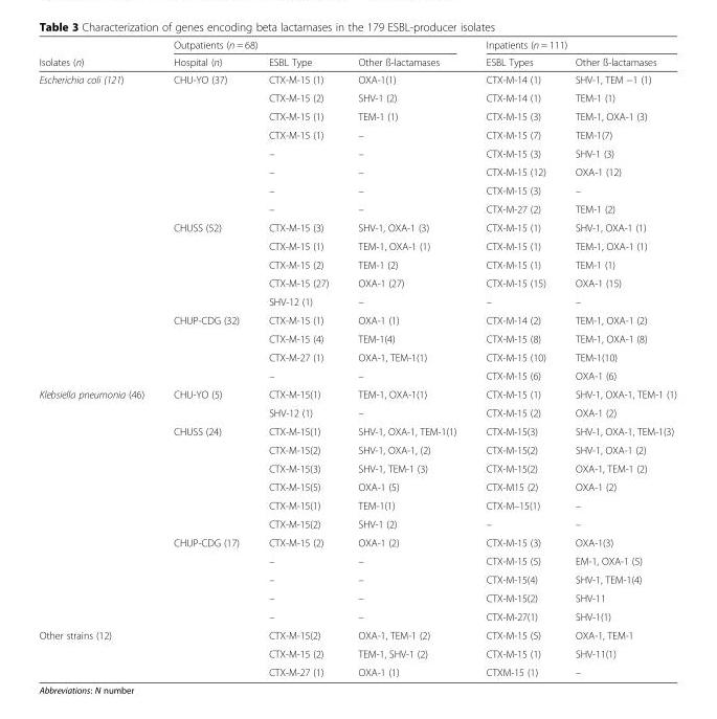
<table><thead><tr><td rowspan="2">Isolates (n)</td><td colspan="3">Outpatients (n = 68)</td><td colspan="2">Inpatients (n = 111)</td></tr><tr><td>Hospital (n)</td><td>ESBL Type</td><td>Other ß-lactamases</td><td>ESBL Types</td><td>Other ß-lactamases</td></tr></thead><tbody><tr><td rowspan="17">Escherichia coli (121)</td><td>CHU-YO (37)</td><td>CTX-M-15 (1)</td><td>OXA-1(1)</td><td>CTX-M-14 (1)</td><td>SHV-1, TEM −1 (1)</td></tr><tr><td></td><td>CTX-M-15 (2)</td><td>SHV-1 (2)</td><td>CTX-M-14 (1)</td><td>TEM-1 (1)</td></tr><tr><td></td><td>CTX-M-15 (1)</td><td>TEM-1 (1)</td><td>CTX-M-15 (3)</td><td>TEM-1, OXA-1 (3)</td></tr><tr><td></td><td>CTX-M-15 (1)</td><td>–</td><td>CTX-M-15 (7)</td><td>TEM-1(7)</td></tr><tr><td></td><td>–</td><td>–</td><td>CTX-M-15 (3)</td><td>SHV-1 (3)</td></tr><tr><td></td><td>–</td><td>–</td><td>CTX-M-15 (12)</td><td>OXA-1 (12)</td></tr><tr><td></td><td>–</td><td>–</td><td>CTX-M-15 (3)</td><td>–</td></tr><tr><td></td><td>–</td><td>–</td><td>CTX-M-27 (2)</td><td>TEM-1 (2)</td></tr><tr><td>CHUSS (52)</td><td>CTX-M-15 (3)</td><td>SHV-1, OXA-1 (3)</td><td>CTX-M-15 (1)</td><td>SHV-1, OXA-1 (1)</td></tr><tr><td></td><td>CTX-M-15 (1)</td><td>TEM-1, OXA-1 (1)</td><td>CTX-M-15 (1)</td><td>TEM-1, OXA-1 (1)</td></tr><tr><td></td><td>CTX-M-15 (2)</td><td>TEM-1 (2)</td><td>CTX-M-15 (1)</td><td>TEM-1 (1)</td></tr><tr><td></td><td>CTX-M-15 (27)</td><td>OXA-1 (27)</td><td>CTX-M-15 (15)</td><td>OXA-1 (15)</td></tr><tr><td></td><td>SHV-12 (1)</td><td>–</td><td>–</td><td>–</td></tr><tr><td>CHUP-CDG (32)</td><td>CTX-M-15 (1)</td><td>OXA-1 (1)</td><td>CTX-M-14 (2)</td><td>TEM-1, OXA-1 (2)</td></tr><tr><td></td><td>CTX-M-15 (4)</td><td>TEM-1(4)</td><td>CTX-M-15 (8)</td><td>TEM-1, OXA-1 (8)</td></tr><tr><td></td><td>CTX-M-27 (1)</td><td>OXA-1, TEM-1(1)</td><td>CTX-M-15 (10)</td><td>TEM-1(10)</td></tr><tr><td></td><td>–</td><td>–</td><td>CTX-M-15 (6)</td><td>OXA-1 (6)</td></tr><tr><td rowspan="13">Klebsiella pneumonia (46)</td><td>CHU-YO (5)</td><td>CTX-M-15(1)</td><td>TEM-1, OXA-1(1)</td><td>CTX-M-15 (1)</td><td>SHV-1, OXA-1, TEM-1 (1)</td></tr><tr><td></td><td>SHV-12 (1)</td><td>–</td><td>CTX-M-15 (2)</td><td>OXA-1 (2)</td></tr><tr><td>CHUSS (24)</td><td>CTX-M-15(1)</td><td>SHV-1, OXA-1, TEM-1(1)</td><td>CTX-M-15(3)</td><td>SHV-1, OXA-1, TEM-1(3)</td></tr><tr><td></td><td>CTX-M-15(2)</td><td>SHV-1, OXA-1, (2)</td><td>CTX-M-15(2)</td><td>SHV-1, OXA-1 (2)</td></tr><tr><td></td><td>CTX-M-15(3)</td><td>SHV-1, TEM-1 (3)</td><td>CTX-M-15(2)</td><td>OXA-1, TEM-1 (2)</td></tr><tr><td></td><td>CTX-M-15(5)</td><td>OXA-1 (5)</td><td>CTX-M15 (2)</td><td>OXA-1 (2)</td></tr><tr><td></td><td>CTX-M-15(1)</td><td>TEM-1(1)</td><td>CTX-M–15(1)</td><td>–</td></tr><tr><td></td><td>CTX-M-15(2)</td><td>SHV-1 (2)</td><td>–</td><td>–</td></tr><tr><td>CHUP-CDG (17)</td><td>CTX-M-15 (2)</td><td>OXA-1 (2)</td><td>CTX-M-15 (3)</td><td>OXA-1(3)</td></tr><tr><td></td><td>–</td><td>–</td><td>CTX-M-15 (5)</td><td>EM-1, OXA-1 (5)</td></tr><tr><td></td><td>–</td><td>–</td><td>CTX-M-15(4)</td><td>SHV-1, TEM-1(4)</td></tr><tr><td></td><td>–</td><td>–</td><td>CTX-M-15(2)</td><td>SHV-11</td></tr><tr><td></td><td>–</td><td>–</td><td>CTX-M-27(1)</td><td>SHV-1(1)</td></tr><tr><td rowspan="3">Other strains (12)</td><td></td><td>CTX-M-15(2)</td><td>OXA-1, TEM-1 (2)</td><td>CTX-M-15 (5)</td><td>OXA-1, TEM-1</td></tr><tr><td></td><td>CTX-M-15 (2)</td><td>TEM-1, SHV-1 (2)</td><td>CTX-M-15 (1)</td><td>SHV-11(1)</td></tr><tr><td></td><td>CTX-M-27 (1)</td><td>OXA-1 (1)</td><td>CTXM-15 (1)</td><td>–</td></tr></tbody></table>